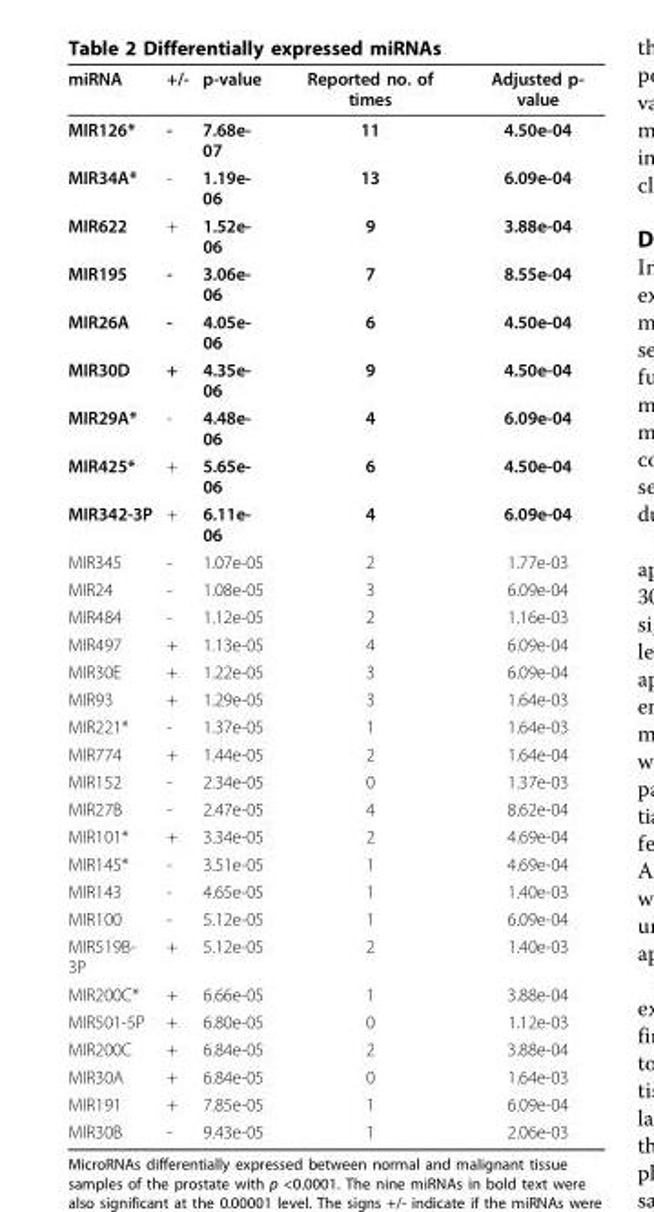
<table><thead><tr><td>miRNA</td><td>+/-</td><td>p-value</td><td>Reported no. of times</td><td>Adjusted p- value</td></tr></thead><tbody><tr><td>MIR126*</td><td>-</td><td>7.68e- 07</td><td>11</td><td>4.50e-04</td></tr><tr><td>MIR34A*</td><td>-</td><td>1.19e- 06</td><td>13</td><td>6.09e-04</td></tr><tr><td>MIR622</td><td>+</td><td>1.52e- 06</td><td>9</td><td>3.88e-04</td></tr><tr><td>MIR195</td><td>-</td><td>3.06e- 06</td><td>7</td><td>8.55e-04</td></tr><tr><td>MIR26A</td><td>-</td><td>4.05e- 06</td><td>6</td><td>4.50e-04</td></tr><tr><td>MIR30D</td><td>+</td><td>4.35e- 06</td><td>9</td><td>4.50e-04</td></tr><tr><td>MIR29A*</td><td>-</td><td>4.48e- 06</td><td>4</td><td>6.09e-04</td></tr><tr><td>MIR425*</td><td>+</td><td>5.65e- 06</td><td>6</td><td>4.50e-04</td></tr><tr><td>MIR342-3P</td><td>+</td><td>6.11e- 06</td><td>4</td><td>6.09e-04</td></tr><tr><td>MIR345</td><td>-</td><td>1.07e-05</td><td>2</td><td>1.77e-03</td></tr><tr><td>MIR24</td><td>-</td><td>1.08e-05</td><td>3</td><td>6.09e-04</td></tr><tr><td>MIR484</td><td>-</td><td>1.12e-05</td><td>2</td><td>1.16e-03</td></tr><tr><td>MIR497</td><td>+</td><td>1.13e-05</td><td>4</td><td>6.09e-04</td></tr><tr><td>MIR30E</td><td>+</td><td>1.22e-05</td><td>3</td><td>6.09e-04</td></tr><tr><td>MIR93</td><td>+</td><td>1.29e-05</td><td>3</td><td>1.64e-03</td></tr><tr><td>MIR221*</td><td>-</td><td>1.37e-05</td><td>1</td><td>1.64e-03</td></tr><tr><td>MIR774</td><td>+</td><td>1.44e-05</td><td>2</td><td>1.64e-04</td></tr><tr><td>MIR152</td><td>-</td><td>2.34e-05</td><td>0</td><td>1.37e-03</td></tr><tr><td>MIR27B</td><td>-</td><td>2.47e-05</td><td>4</td><td>8.62e-04</td></tr><tr><td>MIR101*</td><td>+</td><td>3.34e-05</td><td>2</td><td>4.69e-04</td></tr><tr><td>MIR145*</td><td>-</td><td>3.51e-05</td><td>1</td><td>4.69e-04</td></tr><tr><td>MIR143</td><td>-</td><td>4.65e-05</td><td>1</td><td>1.40e-03</td></tr><tr><td>MIR100</td><td>-</td><td>5.12e-05</td><td>1</td><td>6.09e-04</td></tr><tr><td>MIR519B- 3P</td><td>+</td><td>5.12e-05</td><td>2</td><td>1.40e-03</td></tr><tr><td>MIR200C*</td><td>+</td><td>6.66e-05</td><td>1</td><td>3.88e-04</td></tr><tr><td>MIR501-5P</td><td>+</td><td>6.80e-05</td><td>0</td><td>1.12e-03</td></tr><tr><td>MIR200C</td><td>+</td><td>6.84e-05</td><td>2</td><td>3.88e-04</td></tr><tr><td>MIR30A</td><td>+</td><td>6.84e-05</td><td>0</td><td>1.64e-03</td></tr><tr><td>MIR191</td><td>+</td><td>7.85e-05</td><td>1</td><td>6.09e-04</td></tr><tr><td>MIR30B</td><td>-</td><td>9.43e-05</td><td>1</td><td>2.06e-03</td></tr></tbody></table>